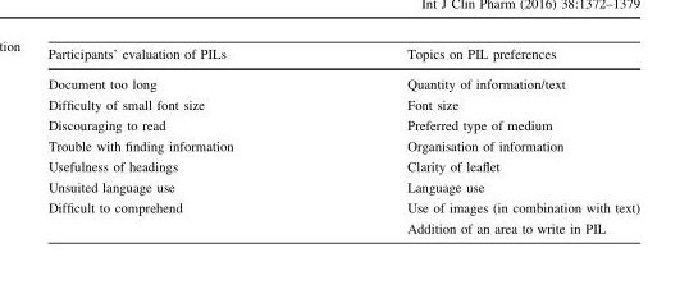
<table><thead><tr><td>Participants’ evaluation of PILs</td><td>Topics on PIL preferences</td></tr></thead><tbody><tr><td>Document too long</td><td>Quantity of information/text</td></tr><tr><td>Difficulty of small font size</td><td>Font size</td></tr><tr><td>Discouraging to read</td><td>Preferred type of medium</td></tr><tr><td>Trouble with finding information</td><td>Organisation of information</td></tr><tr><td>Usefulness of headings</td><td>Clarity of leaflet</td></tr><tr><td>Unsuited language use</td><td>Language use</td></tr><tr><td rowspan="2">Difficult to comprehend</td><td>Use of images (in combination with text)</td></tr><tr><td>Addition of an area to write in PIL</td></tr></tbody></table>